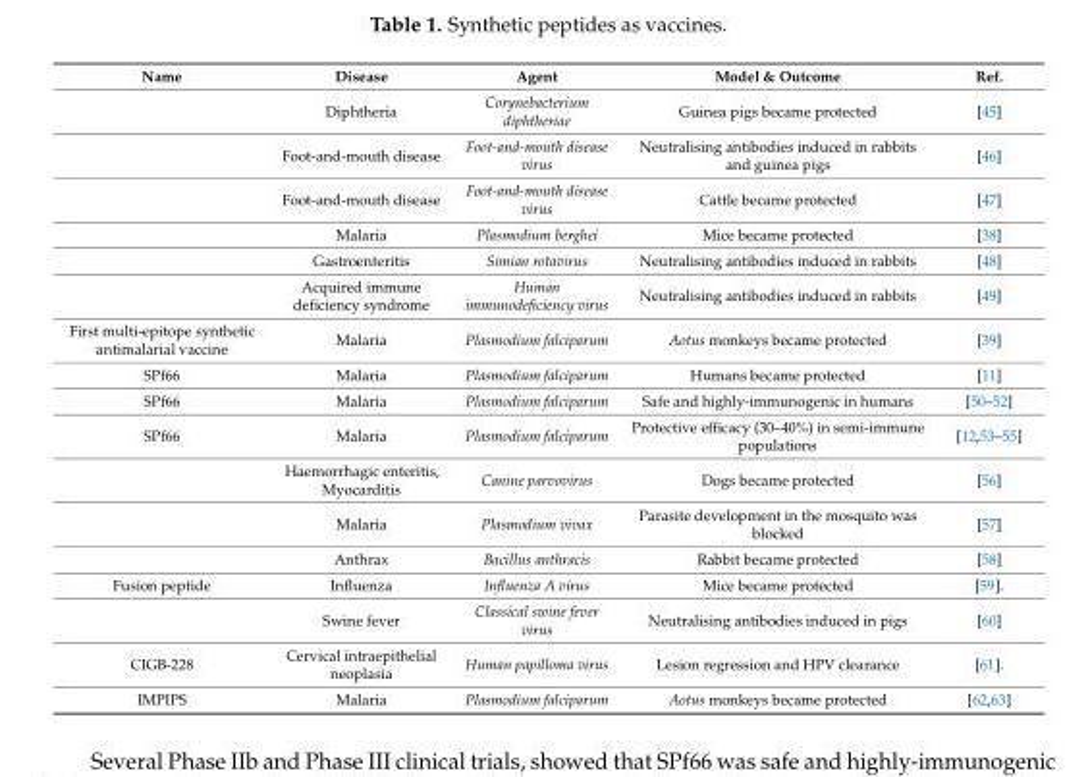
<table><thead><tr><td>Name</td><td>Disease</td><td>Agent</td><td>Model &amp; Outcome</td><td>Ref.</td></tr></thead><tbody><tr><td></td><td>Diphtheria</td><td>Corynebacterium diphtheriae</td><td>Guinea pigs became protected</td><td>[45]</td></tr><tr><td></td><td>Foot-and-mouth disease</td><td>Foot-and-mouth disease virus</td><td>Neutralising antibodies induced in rabbits and guinea pigs</td><td>[46]</td></tr><tr><td></td><td>Foot-and-mouth disease</td><td>Foot-and-mouth disease virus</td><td>Cattle became protected</td><td>[47]</td></tr><tr><td></td><td>Malaria</td><td>Plasmodium berghei</td><td>Mice became protected</td><td>[38]</td></tr><tr><td></td><td>Gastroenteritis</td><td>Simian rotavirus</td><td>Neutralising antibodies induced in rabbits</td><td>[48]</td></tr><tr><td></td><td>Acquired immune deficiency syndrome</td><td>Human immunodeficiency virus</td><td>Neutralising antibodies induced in rabbits</td><td>[49]</td></tr><tr><td>First multi-epitope synthetic antimalarial vaccine</td><td>Malaria</td><td>Plasmodium falciparum</td><td>Aotus monkeys became protected</td><td>[39]</td></tr><tr><td>SPf66</td><td>Malaria</td><td>Plasmodium falciparum</td><td>Humans became protected</td><td>[11]</td></tr><tr><td>SPf66</td><td>Malaria</td><td>Plasmodium falciparum</td><td>Safe and highly-immunogenic in humans</td><td>[50–52]</td></tr><tr><td rowspan="4">SPf66</td><td>Malaria</td><td>Plasmodium falciparum</td><td>Protective efficacy (30–40%) in semi-immune populations</td><td>[12,53–55]</td></tr><tr><td>Haemorrhagic enteritis, Myocarditis</td><td>Canine parvovirus</td><td>Dogs became protected</td><td>[56]</td></tr><tr><td>Malaria</td><td>Plasmodium vivax</td><td>Parasite development in the mosquito was blocked</td><td>[57]</td></tr><tr><td>Anthrax</td><td>Bacillus anthracis</td><td>Rabbit became protected</td><td>[58]</td></tr><tr><td rowspan="2">Fusion peptide</td><td>Influenza</td><td>Influenza A virus</td><td>Mice became protected</td><td>[59].</td></tr><tr><td>Swine fever</td><td>Classical swine fever virus</td><td>Neutralising antibodies induced in pigs</td><td>[60]</td></tr><tr><td>CIGB-228</td><td>Cervical intraepithelial neoplasia</td><td>Human papilloma virus</td><td>Lesion regression and HPV clearance</td><td>[61].</td></tr><tr><td>IMPIPS</td><td>Malaria</td><td>Plasmodium falciparum</td><td>Aotus monkeys became protected</td><td>[62,63]</td></tr></tbody></table>